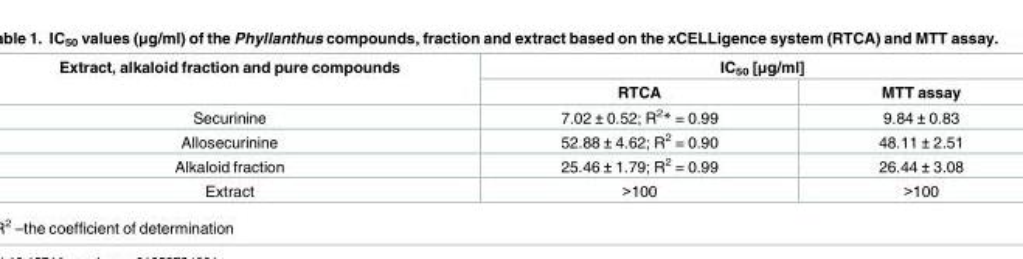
<table><thead><tr><td rowspan="2">Extract, alkaloid fraction and pure compounds</td><td colspan="2">IC<sub>50</sub> [μg/ml]</td></tr><tr><td>RTCA</td><td>MTT assay</td></tr></thead><tbody><tr><td>Securinine</td><td>7.02 ± 0.52; R<sup>2</sup>* = 0.99</td><td>9.84 ± 0.83</td></tr><tr><td>Allosecurinine</td><td>52.88 ± 4.62; R<sup>2</sup> = 0.90</td><td>48.11 ± 2.51</td></tr><tr><td>Alkaloid fraction</td><td>25.46 ± 1.79; R<sup>2</sup> = 0.99</td><td>26.44 ± 3.08</td></tr><tr><td>Extract</td><td>&gt;100</td><td>&gt;100</td></tr></tbody></table>